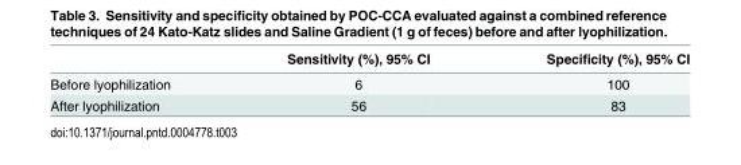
<table><thead><tr><td></td><td>Sensitivity (%), 95% CI</td><td>Specificity (%), 95% CI</td></tr></thead><tbody><tr><td>Before lyophilization</td><td>6</td><td>100</td></tr><tr><td>After lyophilization</td><td>56</td><td>83</td></tr></tbody></table>